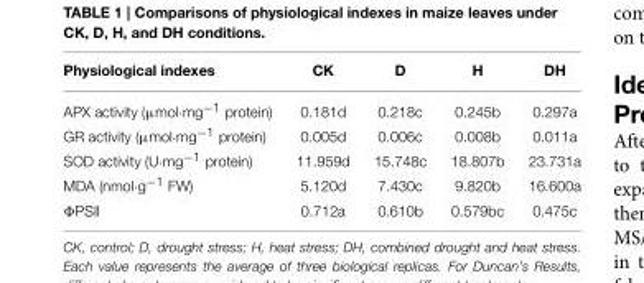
<table><thead><tr><td>Physiological indexes</td><td>CK</td><td>D</td><td>H</td><td>DH</td></tr></thead><tbody><tr><td>APX activity (µmol·mg<sup>−1</sup> protein)</td><td>0.181d</td><td>0.218c</td><td>0.245b</td><td>0.297a</td></tr><tr><td>GR activity (µmol·mg<sup>−1</sup> protein)</td><td>0.005d</td><td>0.006c</td><td>0.008b</td><td>0.011a</td></tr><tr><td>SOD activity (U·mg<sup>−1</sup> protein)</td><td>11.959d</td><td>15.748c</td><td>18.807b</td><td>23.731a</td></tr><tr><td>MDA (nmol·g<sup>−1</sup> FW)</td><td>5.120d</td><td>7.430c</td><td>9.820b</td><td>16.600a</td></tr><tr><td>ΦPSII</td><td>0.712a</td><td>0.610b</td><td>0.579bc</td><td>0.475c</td></tr></tbody></table>